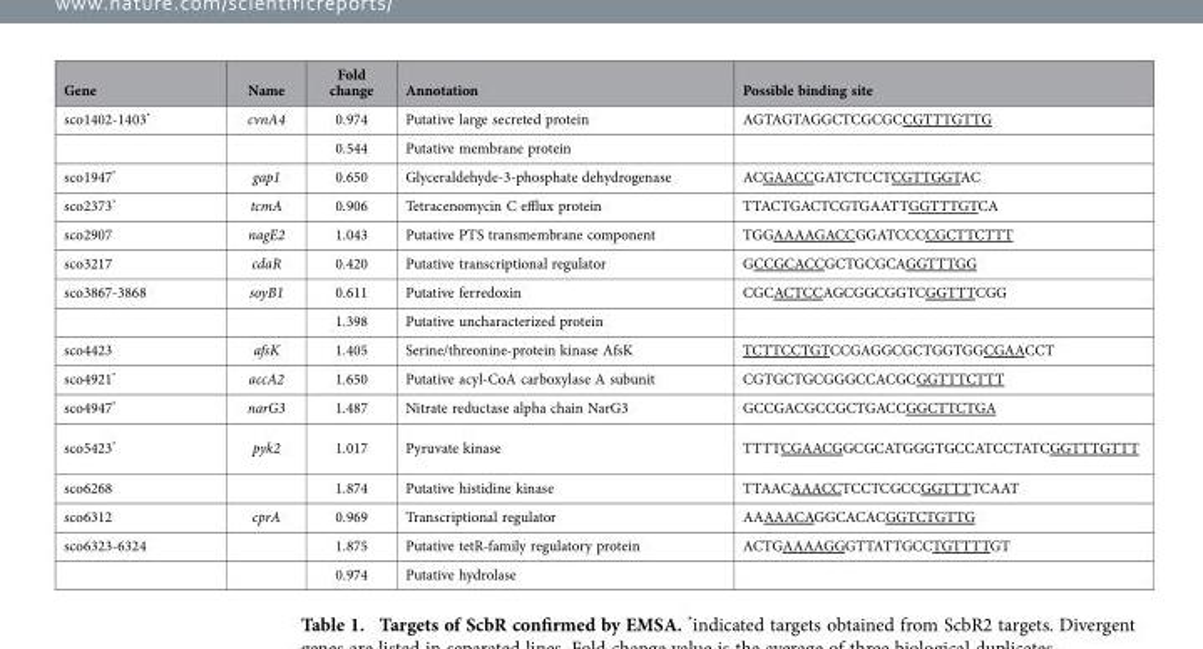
<table><thead><tr><td>Gene</td><td>Name</td><td>Fold change</td><td>Annotation</td><td>Possible binding site</td></tr></thead><tbody><tr><td rowspan="2">sco1402-1403*</td><td>cvnA4</td><td>0.974</td><td>Putative large secreted protein</td><td>AGTAGTAGGCTCGCGCCGTTTGTTG</td></tr><tr><td></td><td>0.544</td><td>Putative membrane protein</td><td></td></tr><tr><td>sco1947*</td><td>gap1</td><td>0.650</td><td>Glyceraldehyde-3-phosphate dehydrogenase</td><td>ACGAACCGATCTCCTCGTTGGTAC</td></tr><tr><td>sco2373*</td><td>tcmA</td><td>0.906</td><td>Tetracenomycin C efflux protein</td><td>TTACTGACTCGTGAATTGGTTTGTCA</td></tr><tr><td>sco2907</td><td>nagE2</td><td>1.043</td><td>Putative PTS transmembrane component</td><td>TGGAAAAGACCGGATCCCCGCTTCTTT</td></tr><tr><td>sco3217</td><td>cdaR</td><td>0.420</td><td>Putative transcriptional regulator</td><td>GCCGCACCGCTGCGCAGGTTTGG</td></tr><tr><td rowspan="2">sco3867-3868</td><td>soyB1</td><td>0.611</td><td>Putative ferredoxin</td><td>CGCACTCCAGCGGCGGTCGGTTTCGG</td></tr><tr><td></td><td>1.398</td><td>Putative uncharacterized protein</td><td></td></tr><tr><td>sco4423</td><td>afsK</td><td>1.405</td><td>Serine/threonine-protein kinase AfsK</td><td>TCTTCCTGTCCGAGGCGCTGGTGGCGAACCT</td></tr><tr><td>sco4921*</td><td>accA2</td><td>1.650</td><td>Putative acyl-CoA carboxylase A subunit</td><td>CGTGCTGCGGGCCACGCGGTTTCTTT</td></tr><tr><td>sco4947*</td><td>narG3</td><td>1.487</td><td>Nitrate reductase alpha chain NarG3</td><td>GCCGACGCCGCTGACCGGCTTCTGA</td></tr><tr><td>sco5423*</td><td>pyk2</td><td>1.017</td><td>Pyruvate kinase</td><td>TTTTCGAACGGCGCATGGGTGCCATCCTATCGGTTTGTTT</td></tr><tr><td>sco6268</td><td></td><td>1.874</td><td>Putative histidine kinase</td><td>TTAACAAACCTCCTCGCCGGTTTTCAAT</td></tr><tr><td>sco6312</td><td>cprA</td><td>0.969</td><td>Transcriptional regulator</td><td>AAAAACAGGCACACGGTCTGTTG</td></tr><tr><td rowspan="2">sco6323-6324</td><td></td><td>1.875</td><td>Putative tetR-family regulatory protein</td><td>ACTGAAAAGGGTTATTGCCTGTTTTGT</td></tr><tr><td></td><td>0.974</td><td>Putative hydrolase</td><td></td></tr></tbody></table>